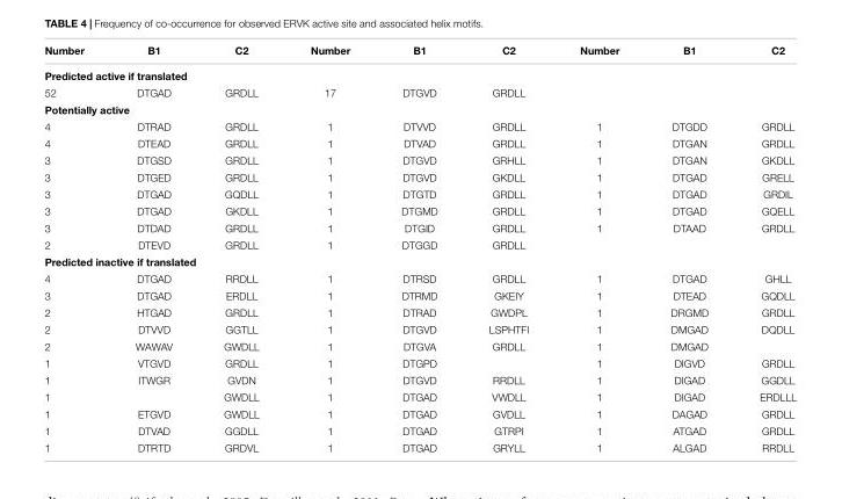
<table><thead><tr><td>Number</td><td>B1</td><td>C2</td><td>Number</td><td>B1</td><td>C2</td><td>Number</td><td>B1</td><td>C2</td></tr></thead><tbody><tr><td colspan="9">Predicted active if translated</td></tr><tr><td>52</td><td>DTGAD</td><td>GRDLL</td><td>17</td><td>DTGVD</td><td>GRDLL</td><td></td><td></td><td></td></tr><tr><td colspan="9">Potentially active</td></tr><tr><td>4</td><td>DTRAD</td><td>GRDLL</td><td>1</td><td>DTVVD</td><td>GRDLL</td><td>1</td><td>DTGDD</td><td>GRDLL</td></tr><tr><td>4</td><td>DTEAD</td><td>GRDLL</td><td>1</td><td>DTVAD</td><td>GRDLL</td><td>1</td><td>DTGAN</td><td>GRDLL</td></tr><tr><td>3</td><td>DTGSD</td><td>GRDLL</td><td>1</td><td>DTGVD</td><td>GRHLL</td><td>1</td><td>DTGAN</td><td>GKDLL</td></tr><tr><td>3</td><td>DTGED</td><td>GRDLL</td><td>1</td><td>DTGVD</td><td>GKDLL</td><td>1</td><td>DTGAD</td><td>GRELL</td></tr><tr><td>3</td><td>DTGAD</td><td>GQDLL</td><td>1</td><td>DTGTD</td><td>GRDLL</td><td>1</td><td>DTGAD</td><td>GRDIL</td></tr><tr><td>3</td><td>DTGAD</td><td>GKDLL</td><td>1</td><td>DTGMD</td><td>GRDLL</td><td>1</td><td>DTGAD</td><td>GQELL</td></tr><tr><td>3</td><td>DTDAD</td><td>GRDLL</td><td>1</td><td>DTGID</td><td>GRDLL</td><td>1</td><td>DTAAD</td><td>GRDLL</td></tr><tr><td>2</td><td>DTEVD</td><td>GRDLL</td><td>1</td><td>DTGGD</td><td>GRDLL</td><td></td><td></td><td></td></tr><tr><td colspan="9">Predicted inactive if translated</td></tr><tr><td>4</td><td>DTGAD</td><td>RRDLL</td><td>1</td><td>DTRSD</td><td>GRDLL</td><td>1</td><td>DTGAD</td><td>GHLL</td></tr><tr><td>3</td><td>DTGAD</td><td>ERDLL</td><td>1</td><td>DTRMD</td><td>GKEIY</td><td>1</td><td>DTEAD</td><td>GQDLL</td></tr><tr><td>2</td><td>HTGAD</td><td>GRDLL</td><td>1</td><td>DTRAD</td><td>GWDPL</td><td>1</td><td>DRGMD</td><td>GRDLL</td></tr><tr><td>2</td><td>DTVVD</td><td>GGTLL</td><td>1</td><td>DTGVD</td><td>LSPHTFI</td><td>1</td><td>DMGAD</td><td>DQDLL</td></tr><tr><td>2</td><td>WAWAV</td><td>GWDLL</td><td>1</td><td>DTGVA</td><td>GRDLL</td><td>1</td><td>DMGAD</td><td></td></tr><tr><td>1</td><td>VTGVD</td><td>GRDLL</td><td>1</td><td>DTGPD</td><td></td><td>1</td><td>DIGVD</td><td>GRDLL</td></tr><tr><td>1</td><td>ITWGR</td><td>GVDN</td><td>1</td><td>DTGVD</td><td>RRDLL</td><td>1</td><td>DIGAD</td><td>GGDLL</td></tr><tr><td>1</td><td></td><td>GWDLL</td><td>1</td><td>DTGAD</td><td>VWDLL</td><td>1</td><td>DIGAD</td><td>ERDLLL</td></tr><tr><td>1</td><td>ETGVD</td><td>GWDLL</td><td>1</td><td>DTGAD</td><td>GVDLL</td><td>1</td><td>DAGAD</td><td>GRDLL</td></tr><tr><td>1</td><td>DTVAD</td><td>GGDLL</td><td>1</td><td>DTGAD</td><td>GTRPI</td><td>1</td><td>ATGAD</td><td>GRDLL</td></tr><tr><td>1</td><td>DTRTD</td><td>GRDVL</td><td>1</td><td>DTGAD</td><td>GRYLL</td><td>1</td><td>ALGAD</td><td>RRDLL</td></tr></tbody></table>